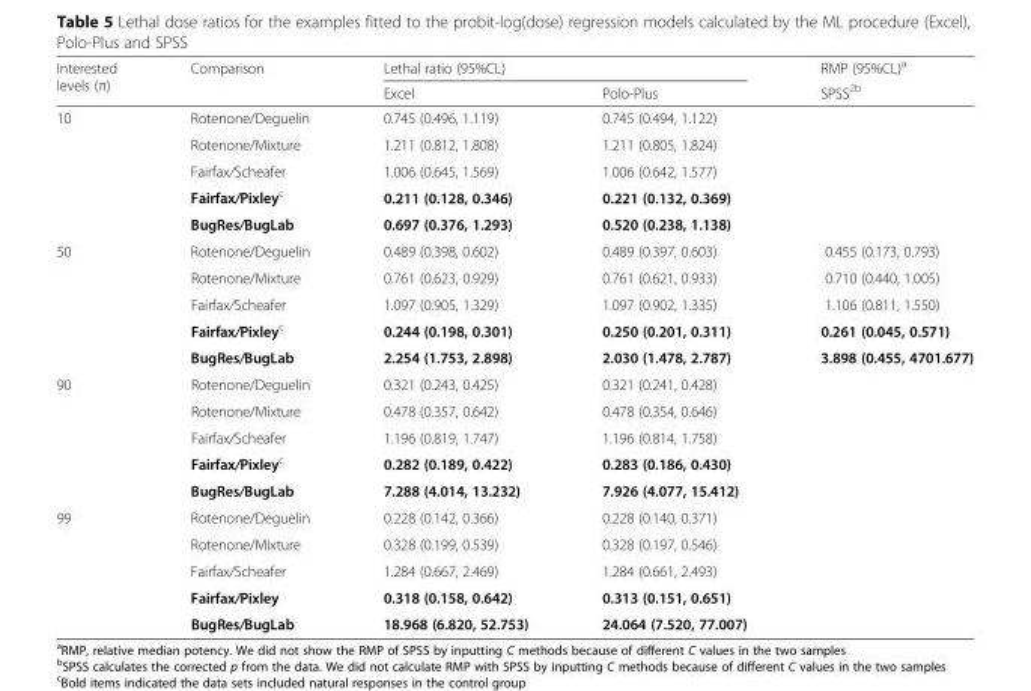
<table><thead><tr><td rowspan="2">Interested levels (π)</td><td rowspan="2">Comparison</td><td colspan="2">Lethal ratio (95%CL)</td><td rowspan="2">RMP (95%CL)<sup>a</sup> SPSS<sup>2b</sup></td></tr><tr><td>Excel</td><td>Polo-Plus</td></tr></thead><tbody><tr><td rowspan="5">10</td><td>Rotenone/Deguelin</td><td>0.745 (0.496, 1.119)</td><td>0.745 (0.494, 1.122)</td><td></td></tr><tr><td>Rotenone/Mixture</td><td>1.211 (0.812, 1.808)</td><td>1.211 (0.805, 1.824)</td><td></td></tr><tr><td>Fairfax/Scheafer</td><td>1.006 (0.645, 1.569)</td><td>1.006 (0.642, 1.577)</td><td></td></tr><tr><td>Fairfax/Pixley<sup>c</sup></td><td>0.211 (0.128, 0.346)</td><td>0.221 (0.132, 0.369)</td><td></td></tr><tr><td>BugRes/BugLab</td><td>0.697 (0.376, 1.293)</td><td>0.520 (0.238, 1.138)</td><td></td></tr><tr><td rowspan="5">50</td><td>Rotenone/Deguelin</td><td>0.489 (0.398, 0.602)</td><td>0.489 (0.397, 0.603)</td><td>0.455 (0.173, 0.793)</td></tr><tr><td>Rotenone/Mixture</td><td>0.761 (0.623, 0.929)</td><td>0.761 (0.621, 0.933)</td><td>0.710 (0.440, 1.005)</td></tr><tr><td>Fairfax/Scheafer</td><td>1.097 (0.905, 1.329)</td><td>1.097 (0.902, 1.335)</td><td>1.106 (0.811, 1.550)</td></tr><tr><td>Fairfax/Pixley<sup>c</sup></td><td>0.244 (0.198, 0.301)</td><td>0.250 (0.201, 0.311)</td><td>0.261 (0.045, 0.571)</td></tr><tr><td>BugRes/BugLab</td><td>2.254 (1.753, 2.898)</td><td>2.030 (1.478, 2.787)</td><td>3.898 (0.455, 4701.677)</td></tr><tr><td rowspan="5">90</td><td>Rotenone/Deguelin</td><td>0.321 (0.243, 0.425)</td><td>0.321 (0.241, 0.428)</td><td></td></tr><tr><td>Rotenone/Mixture</td><td>0.478 (0.357, 0.642)</td><td>0.478 (0.354, 0.646)</td><td></td></tr><tr><td>Fairfax/Scheafer</td><td>1.196 (0.819, 1.747)</td><td>1.196 (0.814, 1.758)</td><td></td></tr><tr><td>Fairfax/Pixley<sup>c</sup></td><td>0.282 (0.189, 0.422)</td><td>0.283 (0.186, 0.430)</td><td></td></tr><tr><td>BugRes/BugLab</td><td>7.288 (4.014, 13.232)</td><td>7.926 (4.077, 15.412)</td><td></td></tr><tr><td rowspan="5">99</td><td>Rotenone/Deguelin</td><td>0.228 (0.142, 0.366)</td><td>0.228 (0.140, 0.371)</td><td></td></tr><tr><td>Rotenone/Mixture</td><td>0.328 (0.199, 0.539)</td><td>0.328 (0.197, 0.546)</td><td></td></tr><tr><td>Fairfax/Scheafer</td><td>1.284 (0.667, 2.469)</td><td>1.284 (0.661, 2.493)</td><td></td></tr><tr><td>Fairfax/Pixley</td><td>0.318 (0.158, 0.642)</td><td>0.313 (0.151, 0.651)</td><td></td></tr><tr><td>BugRes/BugLab</td><td>18.968 (6.820, 52.753)</td><td>24.064 (7.520, 77.007)</td><td></td></tr></tbody></table>